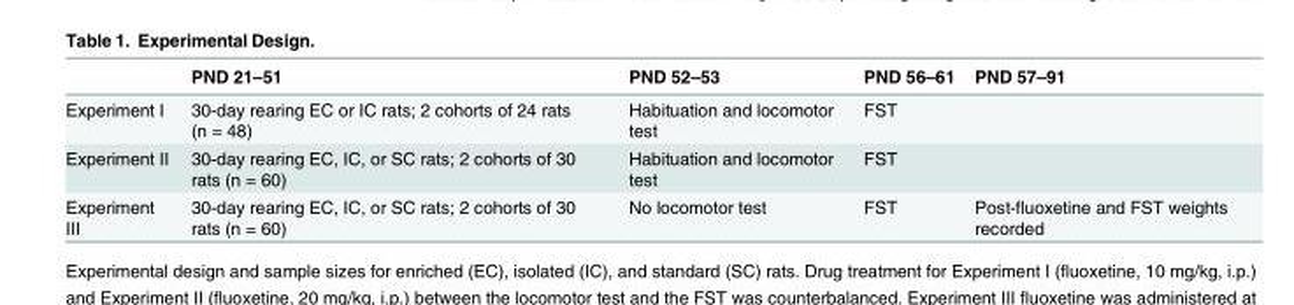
<table><thead><tr><td></td><td>PND 21–51</td><td>PND 52–53</td><td>PND 56–61</td><td>PND 57–91</td></tr></thead><tbody><tr><td>Experiment I</td><td>30-day rearing EC or IC rats; 2 cohorts of 24 rats (n = 48)</td><td>Habituation and locomotor test</td><td>FST</td><td></td></tr><tr><td>Experiment II</td><td>30-day rearing EC, IC, or SC rats; 2 cohorts of 30 rats (n = 60)</td><td>Habituation and locomotor test</td><td>FST</td><td></td></tr><tr><td>Experiment III</td><td>30-day rearing EC, IC, or SC rats; 2 cohorts of 30 rats (n = 60)</td><td>No locomotor test</td><td>FST</td><td>Post-fluoxetine and FST weights recorded</td></tr></tbody></table>